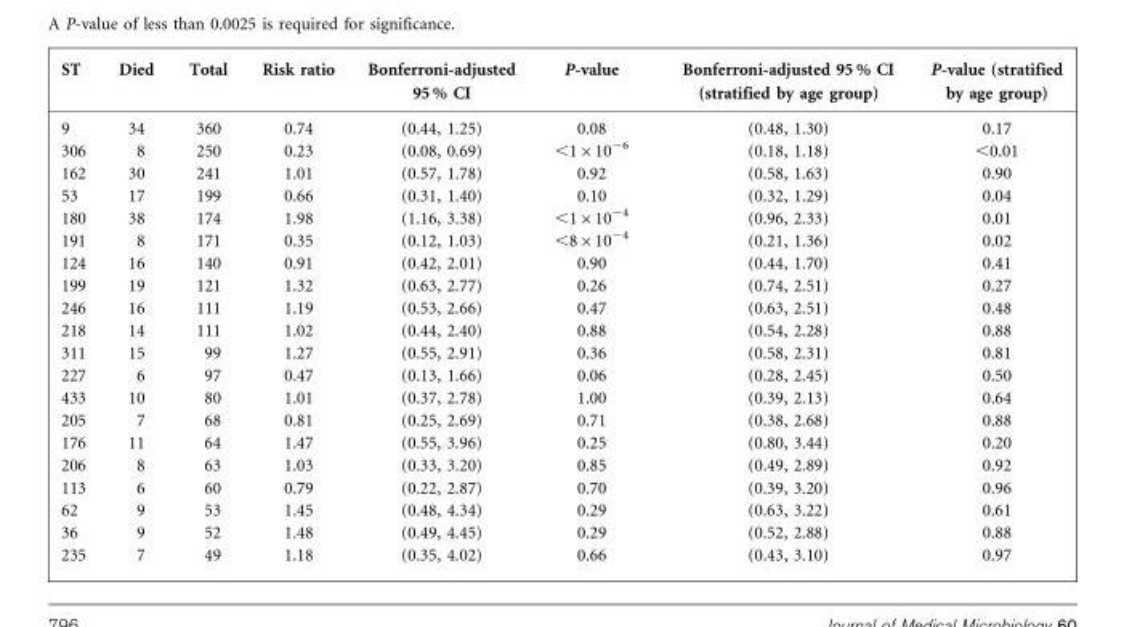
<table><thead><tr><td>ST</td><td>Died</td><td>Total</td><td>Risk ratio</td><td>Bonferroni-adjusted 95 % CI</td><td>P-value</td><td>Bonferroni-adjusted 95 % CI (stratified by age group)</td><td>P-value (stratified by age group)</td></tr></thead><tbody><tr><td>9</td><td>34</td><td>360</td><td>0.74</td><td>(0.44, 1.25)</td><td>0.08</td><td>(0.48, 1.30)</td><td>0.17</td></tr><tr><td>306</td><td>8</td><td>250</td><td>0.23</td><td>(0.08, 0.69)</td><td>&lt;1×10<sup>−6</sup></td><td>(0.18, 1.18)</td><td>&lt;0.01</td></tr><tr><td>162</td><td>30</td><td>241</td><td>1.01</td><td>(0.57, 1.78)</td><td>0.92</td><td>(0.58, 1.63)</td><td>0.90</td></tr><tr><td>53</td><td>17</td><td>199</td><td>0.66</td><td>(0.31, 1.40)</td><td>0.10</td><td>(0.32, 1.29)</td><td>0.04</td></tr><tr><td>180</td><td>38</td><td>174</td><td>1.98</td><td>(1.16, 3.38)</td><td>&lt;1×10<sup>−4</sup></td><td>(0.96, 2.33)</td><td>0.01</td></tr><tr><td>191</td><td>8</td><td>171</td><td>0.35</td><td>(0.12, 1.03)</td><td>&lt;8×10<sup>−4</sup></td><td>(0.21, 1.36)</td><td>0.02</td></tr><tr><td>124</td><td>16</td><td>140</td><td>0.91</td><td>(0.42, 2.01)</td><td>0.90</td><td>(0.44, 1.70)</td><td>0.41</td></tr><tr><td>199</td><td>19</td><td>121</td><td>1.32</td><td>(0.63, 2.77)</td><td>0.26</td><td>(0.74, 2.51)</td><td>0.27</td></tr><tr><td>246</td><td>16</td><td>111</td><td>1.19</td><td>(0.53, 2.66)</td><td>0.47</td><td>(0.63, 2.51)</td><td>0.48</td></tr><tr><td>218</td><td>14</td><td>111</td><td>1.02</td><td>(0.44, 2.40)</td><td>0.88</td><td>(0.54, 2.28)</td><td>0.88</td></tr><tr><td>311</td><td>15</td><td>99</td><td>1.27</td><td>(0.55, 2.91)</td><td>0.36</td><td>(0.58, 2.31)</td><td>0.81</td></tr><tr><td>227</td><td>6</td><td>97</td><td>0.47</td><td>(0.13, 1.66)</td><td>0.06</td><td>(0.28, 2.45)</td><td>0.50</td></tr><tr><td>433</td><td>10</td><td>80</td><td>1.01</td><td>(0.37, 2.78)</td><td>1.00</td><td>(0.39, 2.13)</td><td>0.64</td></tr><tr><td>205</td><td>7</td><td>68</td><td>0.81</td><td>(0.25, 2.69)</td><td>0.71</td><td>(0.38, 2.68)</td><td>0.88</td></tr><tr><td>176</td><td>11</td><td>64</td><td>1.47</td><td>(0.55, 3.96)</td><td>0.25</td><td>(0.80, 3.44)</td><td>0.20</td></tr><tr><td>206</td><td>8</td><td>63</td><td>1.03</td><td>(0.33, 3.20)</td><td>0.85</td><td>(0.49, 2.89)</td><td>0.92</td></tr><tr><td>113</td><td>6</td><td>60</td><td>0.79</td><td>(0.22, 2.87)</td><td>0.70</td><td>(0.39, 3.20)</td><td>0.96</td></tr><tr><td>62</td><td>9</td><td>53</td><td>1.45</td><td>(0.48, 4.34)</td><td>0.29</td><td>(0.63, 3.22)</td><td>0.61</td></tr><tr><td>36</td><td>9</td><td>52</td><td>1.48</td><td>(0.49, 4.45)</td><td>0.29</td><td>(0.52, 2.88)</td><td>0.88</td></tr><tr><td>235</td><td>7</td><td>49</td><td>1.18</td><td>(0.35, 4.02)</td><td>0.66</td><td>(0.43, 3.10)</td><td>0.97</td></tr></tbody></table>